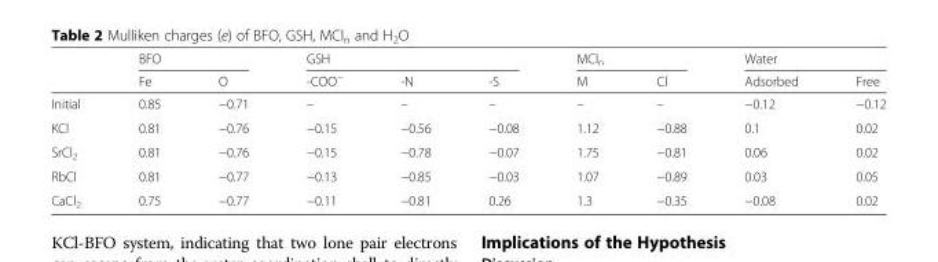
<table><thead><tr><td rowspan="2"></td><td colspan="2">BFO</td><td colspan="3">GSH</td><td colspan="2">MCl<sub>n</sub></td><td colspan="2">Water</td></tr><tr><td>Fe</td><td>O</td><td>-COO<sup>−</sup></td><td>-N</td><td>-S</td><td>M</td><td>Cl</td><td>Adsorbed</td><td>Free</td></tr></thead><tbody><tr><td>Initial</td><td>0.85</td><td>−0.71</td><td>–</td><td>–</td><td>–</td><td>–</td><td>–</td><td>−0.12</td><td>−0.12</td></tr><tr><td>KCl</td><td>0.81</td><td>−0.76</td><td>−0.15</td><td>−0.56</td><td>−0.08</td><td>1.12</td><td>−0.88</td><td>0.1</td><td>0.02</td></tr><tr><td>SrCl<sub>2</sub></td><td>0.81</td><td>−0.76</td><td>−0.15</td><td>−0.78</td><td>−0.07</td><td>1.75</td><td>−0.81</td><td>0.06</td><td>0.02</td></tr><tr><td>RbCl</td><td>0.81</td><td>−0.77</td><td>−0.13</td><td>−0.85</td><td>−0.03</td><td>1.07</td><td>−0.89</td><td>0.03</td><td>0.05</td></tr><tr><td>CaCl<sub>2</sub></td><td>0.75</td><td>−0.77</td><td>−0.11</td><td>−0.81</td><td>0.26</td><td>1.3</td><td>−0.35</td><td>−0.08</td><td>0.02</td></tr></tbody></table>